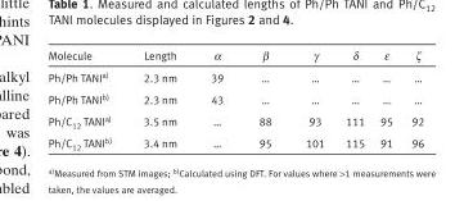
<table><thead><tr><td>Molecule</td><td>Length</td><td>α</td><td>β</td><td>γ</td><td>δ</td><td>ε</td><td>ζ</td></tr></thead><tbody><tr><td>Ph/Ph TANI a)</td><td>2.3 nm</td><td>39</td><td>…</td><td>…</td><td>…</td><td>…</td><td>…</td></tr><tr><td>Ph/Ph TANI b)</td><td>2.3 nm</td><td>43</td><td>…</td><td>…</td><td>…</td><td>…</td><td>…</td></tr><tr><td>Ph/C <sub>12</sub> TANI a)</td><td>3.5 nm</td><td>…</td><td>88</td><td>93</td><td>111</td><td>95</td><td>92</td></tr><tr><td>Ph/C <sub>12</sub> TANI b)</td><td>3.4 nm</td><td>…</td><td>95</td><td>101</td><td>115</td><td>91</td><td>96</td></tr></tbody></table>